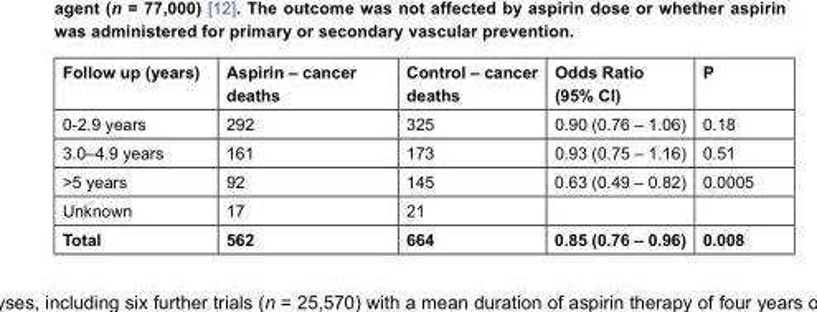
<table><thead><tr><td>Follow up (years)</td><td>Aspirin – cancer deaths</td><td>Control – cancer deaths</td><td>Odds Ratio (95% CI)</td><td>P</td></tr></thead><tbody><tr><td>0-2.9 years</td><td>292</td><td>325</td><td>0.90 (0.76 – 1.06)</td><td>0.18</td></tr><tr><td>3.0–4.9 years</td><td>161</td><td>173</td><td>0.93 (0.75 – 1.16)</td><td>0.51</td></tr><tr><td>&gt;5 years</td><td>92</td><td>145</td><td>0.63 (0.49 – 0.82)</td><td>0.0005</td></tr><tr><td>Unknown</td><td>17</td><td>21</td><td></td><td></td></tr><tr><td>Total</td><td>562</td><td>664</td><td>0.85 (0.76 – 0.96)</td><td>0.008</td></tr></tbody></table>